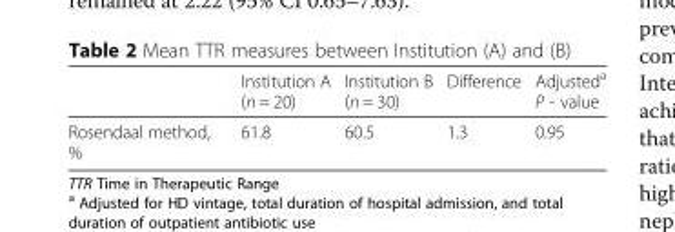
<table><thead><tr><td></td><td>Institution A (n = 20)</td><td>Institution B (n = 30)</td><td>Difference</td><td>Adjusted<sup>a</sup> P - value</td></tr></thead><tbody><tr><td>Rosendaal method, %</td><td>61.8</td><td>60.5</td><td>1.3</td><td>0.95</td></tr></tbody></table>